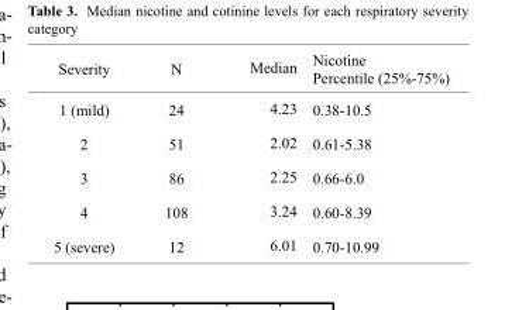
<table><thead><tr><td>Severity</td><td>N</td><td>Median</td><td>Nicotine Percentile (25%-75%)</td></tr></thead><tbody><tr><td>1 (mild)</td><td>24</td><td>4.23</td><td>0.38-10.5</td></tr><tr><td>2</td><td>51</td><td>2.02</td><td>0.61-5.38</td></tr><tr><td>3</td><td>86</td><td>2.25</td><td>0.66-6.0</td></tr><tr><td>4</td><td>108</td><td>3.24</td><td>0.60-8.39</td></tr><tr><td>5 (severe)</td><td>12</td><td>6.01</td><td>0.70-10.99</td></tr></tbody></table>